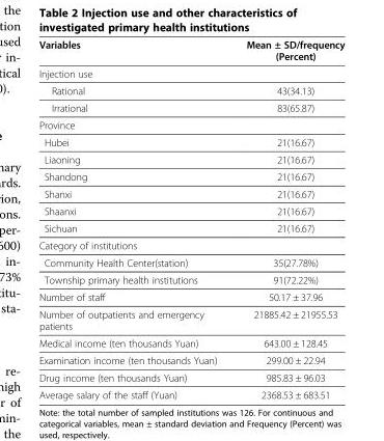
<table><thead><tr><td>Variables</td><td>Mean ± SD/frequency (Percent)</td></tr></thead><tbody><tr><td colspan="2">Injection use</td></tr><tr><td>Rational</td><td>43(34.13)</td></tr><tr><td>Irrational</td><td>83(65.87)</td></tr><tr><td colspan="2">Province</td></tr><tr><td>Hubei</td><td>21(16.67)</td></tr><tr><td>Liaoning</td><td>21(16.67)</td></tr><tr><td>Shandong</td><td>21(16.67)</td></tr><tr><td>Shanxi</td><td>21(16.67)</td></tr><tr><td>Shaanxi</td><td>21(16.67)</td></tr><tr><td>Sichuan</td><td>21(16.67)</td></tr><tr><td colspan="2">Category of institutions</td></tr><tr><td>Community Health Center(station)</td><td>35(27.78%)</td></tr><tr><td>Township primary health institutions</td><td>91(72.22%)</td></tr><tr><td>Number of staff</td><td>50.17 ± 37.96</td></tr><tr><td>Number of outpatients and emergency patients</td><td>21885.42 ± 21955.53</td></tr><tr><td>Medical income (ten thousands Yuan)</td><td>643.00 ± 128.45</td></tr><tr><td>Examination income (ten thousands Yuan)</td><td>299.00 ± 22.94</td></tr><tr><td>Drug income (ten thousands Yuan)</td><td>985.83 ± 96.03</td></tr><tr><td>Average salary of the staff (Yuan)</td><td>2368.53 ± 683.51</td></tr></tbody></table>